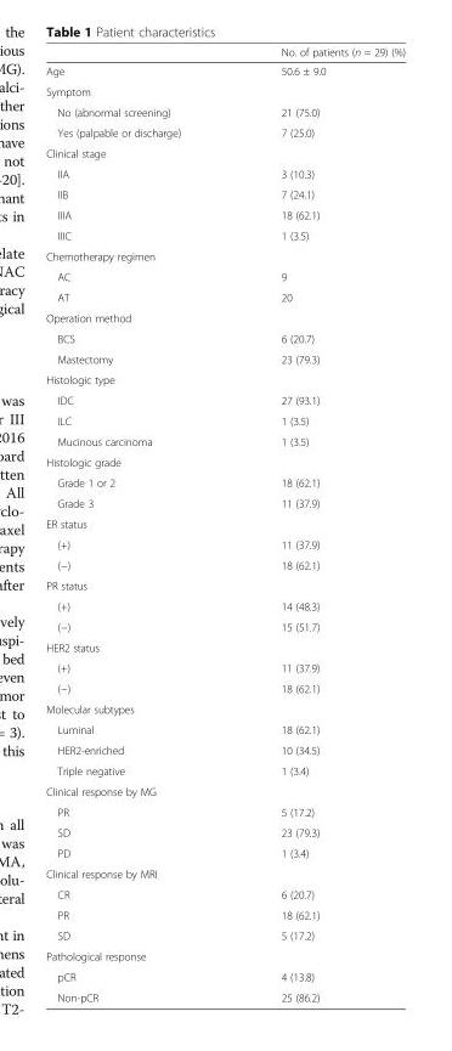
<table><thead><tr><td></td><td>No. of patients (n = 29) (%)</td></tr></thead><tbody><tr><td>Age</td><td>50.6 ± 9.0</td></tr><tr><td colspan="2">Symptom</td></tr><tr><td>No (abnormal screening)</td><td>21 (75.0)</td></tr><tr><td>Yes (palpable or discharge)</td><td>7 (25.0)</td></tr><tr><td colspan="2">Clinical stage</td></tr><tr><td>IIA</td><td>3 (10.3)</td></tr><tr><td>IIB</td><td>7 (24.1)</td></tr><tr><td>IIIA</td><td>18 (62.1)</td></tr><tr><td>IIIC</td><td>1 (3.5)</td></tr><tr><td colspan="2">Chemotherapy regimen</td></tr><tr><td>AC</td><td>9</td></tr><tr><td>AT</td><td>20</td></tr><tr><td colspan="2">Operation method</td></tr><tr><td>BCS</td><td>6 (20.7)</td></tr><tr><td>Mastectomy</td><td>23 (79.3)</td></tr><tr><td colspan="2">Histologic type</td></tr><tr><td>IDC</td><td>27 (93.1)</td></tr><tr><td>ILC</td><td>1 (3.5)</td></tr><tr><td>Mucinous carcinoma</td><td>1 (3.5)</td></tr><tr><td colspan="2">Histologic grade</td></tr><tr><td>Grade 1 or 2</td><td>18 (62.1)</td></tr><tr><td>Grade 3</td><td>11 (37.9)</td></tr><tr><td colspan="2">ER status</td></tr><tr><td>(+)</td><td>11 (37.9)</td></tr><tr><td>(−)</td><td>18 (62.1)</td></tr><tr><td colspan="2">PR status</td></tr><tr><td>(+)</td><td>14 (48.3)</td></tr><tr><td>(−)</td><td>15 (51.7)</td></tr><tr><td colspan="2">HER2 status</td></tr><tr><td>(+)</td><td>11 (37.9)</td></tr><tr><td>(−)</td><td>18 (62.1)</td></tr><tr><td colspan="2">Molecular subtypes</td></tr><tr><td>Luminal</td><td>18 (62.1)</td></tr><tr><td>HER2-enriched</td><td>10 (34.5)</td></tr><tr><td>Triple negative</td><td>1 (3.4)</td></tr><tr><td colspan="2">Clinical response by MG</td></tr><tr><td>PR</td><td>5 (17.2)</td></tr><tr><td>SD</td><td>23 (79.3)</td></tr><tr><td>PD</td><td>1 (3.4)</td></tr><tr><td colspan="2">Clinical response by MRI</td></tr><tr><td>CR</td><td>6 (20.7)</td></tr><tr><td>PR</td><td>18 (62.1)</td></tr><tr><td>SD</td><td>5 (17.2)</td></tr><tr><td colspan="2">Pathological response</td></tr><tr><td>pCR</td><td>4 (13.8)</td></tr><tr><td>Non-pCR</td><td>25 (86.2)</td></tr></tbody></table>